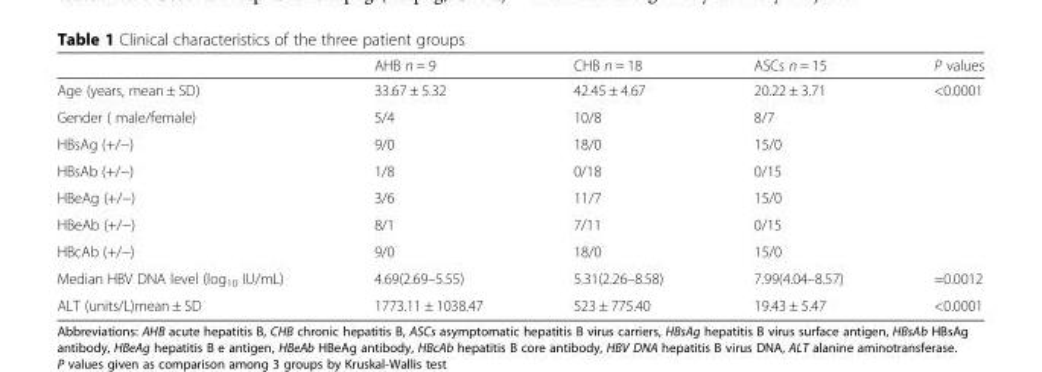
<table><thead><tr><td></td><td>AHB n = 9</td><td>CHB n = 18</td><td>ASCs n = 15</td><td>P values</td></tr></thead><tbody><tr><td>Age (years, mean ± SD)</td><td>33.67 ± 5.32</td><td>42.45 ± 4.67</td><td>20.22 ± 3.71</td><td>&lt;0.0001</td></tr><tr><td>Gender ( male/female)</td><td>5/4</td><td>10/8</td><td>8/7</td><td></td></tr><tr><td>HBsAg (+/−)</td><td>9/0</td><td>18/0</td><td>15/0</td><td></td></tr><tr><td>HBsAb (+/−)</td><td>1/8</td><td>0/18</td><td>0/15</td><td></td></tr><tr><td>HBeAg (+/−)</td><td>3/6</td><td>11/7</td><td>15/0</td><td></td></tr><tr><td>HBeAb (+/−)</td><td>8/1</td><td>7/11</td><td>0/15</td><td></td></tr><tr><td>HBcAb (+/−)</td><td>9/0</td><td>18/0</td><td>15/0</td><td></td></tr><tr><td>Median HBV DNA level (log<sub>10</sub> IU/mL)</td><td>4.69(2.69–5.55)</td><td>5.31(2.26–8.58)</td><td>7.99(4.04–8.57)</td><td>=0.0012</td></tr><tr><td>ALT (units/L)mean ± SD</td><td>1773.11 ± 1038.47</td><td>523 ± 775.40</td><td>19.43 ± 5.47</td><td>&lt;0.0001</td></tr></tbody></table>